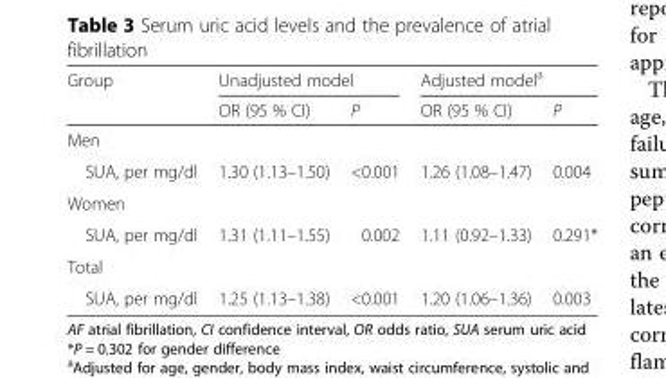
<table><thead><tr><td rowspan="2">Group</td><td colspan="2">Unadjusted model</td><td colspan="2">Adjusted model<sup>a</sup></td></tr><tr><td>OR (95 % CI)</td><td>P</td><td>OR (95 % CI)</td><td>P</td></tr></thead><tbody><tr><td colspan="5">Men</td></tr><tr><td>SUA, per mg/dl</td><td>1.30 (1.13–1.50)</td><td>&lt;0.001</td><td>1.26 (1.08–1.47)</td><td>0.004</td></tr><tr><td colspan="5">Women</td></tr><tr><td>SUA, per mg/dl</td><td>1.31 (1.11–1.55)</td><td>0.002</td><td>1.11 (0.92–1.33)</td><td>0.291*</td></tr><tr><td colspan="5">Total</td></tr><tr><td>SUA, per mg/dl</td><td>1.25 (1.13–1.38)</td><td>&lt;0.001</td><td>1.20 (1.06–1.36)</td><td>0.003</td></tr></tbody></table>